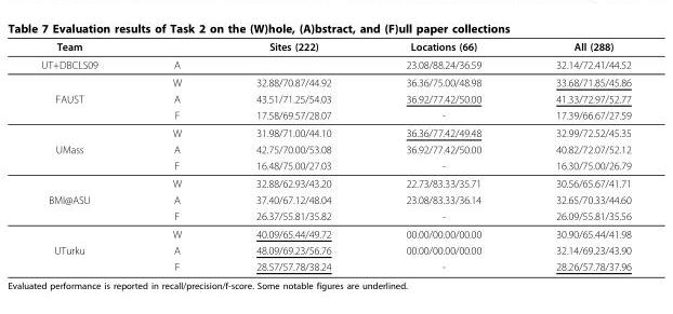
<table><thead><tr><td>Team</td><td></td><td>Sites (222)</td><td>Locations (66)</td><td>All (288)</td></tr></thead><tbody><tr><td rowspan="2">UT+DBCLS09</td><td>A</td><td></td><td>23.08/88.24/36.59</td><td>32.14/72.41/44.52</td></tr><tr><td>W</td><td>32.88/70.87/44.92</td><td>36.36/75.00/48.98</td><td>33.68/71.85/45.86</td></tr><tr><td rowspan="3">FAUST</td><td>A</td><td>43.51/71.25/54.03</td><td>36.92/77.42/50.00</td><td>41.33/72.97/52.77</td></tr><tr><td>F</td><td>17.58/69.57/28.07</td><td>-</td><td>17.39/66.67/27.59</td></tr><tr><td>W</td><td>31.98/71.00/44.10</td><td>36.36/77.42/49.48</td><td>32.99/72.52/45.35</td></tr><tr><td rowspan="3">UMass</td><td>A</td><td>42.75/70.00/53.08</td><td>36.92/77.42/50.00</td><td>40.82/72.07/52.12</td></tr><tr><td>F</td><td>16.48/75.00/27.03</td><td>-</td><td>16.30/75.00/26.79</td></tr><tr><td>W</td><td>32.88/62.93/43.20</td><td>22.73/83.33/35.71</td><td>30.56/65.67/41.71</td></tr><tr><td rowspan="3">BMI@ASU</td><td>A</td><td>37.40/67.12/48.04</td><td>23.08/83.33/36.14</td><td>32.65/70.33/44.60</td></tr><tr><td>F</td><td>26.37/55.81/35.82</td><td>-</td><td>26.09/55.81/35.56</td></tr><tr><td>W</td><td>40.09/65.44/49.72</td><td>00.00/00.00/00.00</td><td>30.90/65.44/41.98</td></tr><tr><td rowspan="2">UTurku</td><td>A</td><td>48.09/69.23/56.76</td><td>00.00/00.00/00.00</td><td>32.14/69.23/43.90</td></tr><tr><td>F</td><td>28.57/57.78/38.24</td><td>-</td><td>28.26/57.78/37.96</td></tr></tbody></table>